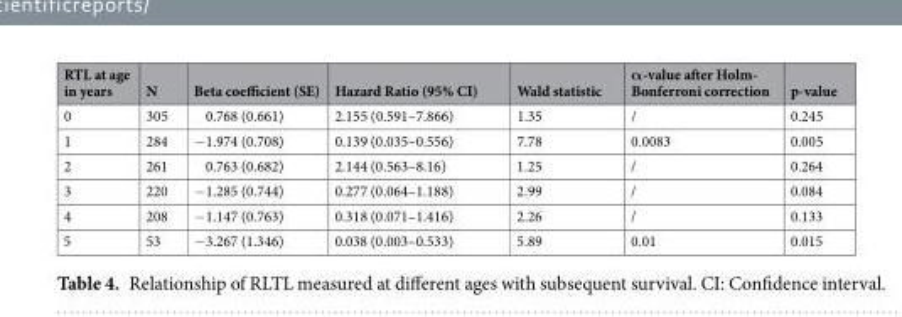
<table><thead><tr><td>RTL at age in years</td><td>N</td><td>Beta coefficient (SE)</td><td>Hazard Ratio (95% CI)</td><td>Wald statistic</td><td>α-value after Holm- Bonferroni correction</td><td>p-value</td></tr></thead><tbody><tr><td>0</td><td>305</td><td>0.768 (0.661)</td><td>2.155 (0.591–7.866)</td><td>1.35</td><td>/</td><td>0.245</td></tr><tr><td>1</td><td>284</td><td>−1.974 (0.708)</td><td>0.139 (0.035–0.556)</td><td>7.78</td><td>0.0083</td><td>0.005</td></tr><tr><td>2</td><td>261</td><td>0.763 (0.682)</td><td>2.144 (0.563–8.16)</td><td>1.25</td><td>/</td><td>0.264</td></tr><tr><td>3</td><td>220</td><td>−1.285 (0.744)</td><td>0.277 (0.064–1.188)</td><td>2.99</td><td>/</td><td>0.084</td></tr><tr><td>4</td><td>208</td><td>−1.147 (0.763)</td><td>0.318 (0.071–1.416)</td><td>2.26</td><td>/</td><td>0.133</td></tr><tr><td>5</td><td>53</td><td>−3.267 (1.346)</td><td>0.038 (0.003–0.533)</td><td>5.89</td><td>0.01</td><td>0.015</td></tr></tbody></table>